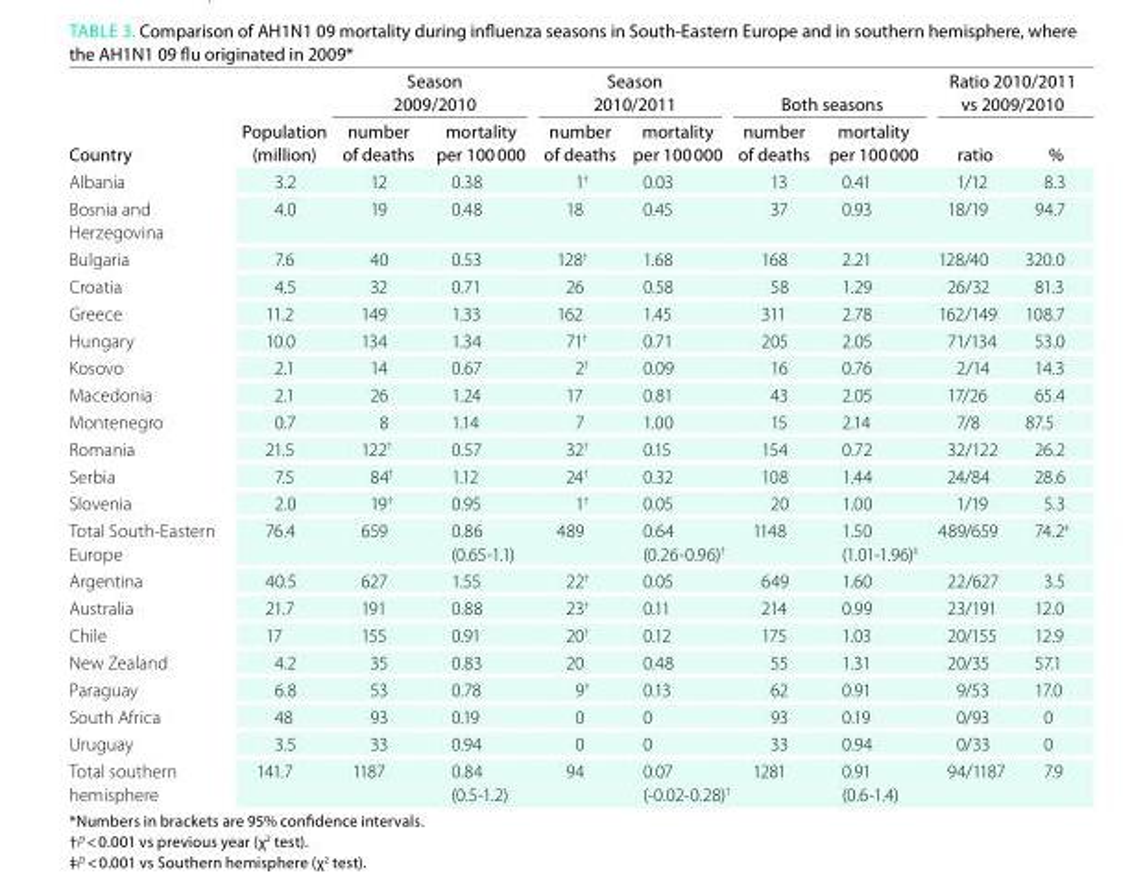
<table><thead><tr><td rowspan="2">country</td><td rowspan="2">Population (million)</td><td colspan="2">Season 2009/2010</td><td colspan="2">Season 2010/2011</td><td colspan="2">both seasons</td><td colspan="2">Ratio 2010/2011 vs 2009/2010</td></tr><tr><td>number of deaths</td><td>mortality per 100 000</td><td>number of deaths</td><td>mortality per 100 000</td><td>number of deaths</td><td>mortality per 100 000</td><td>ratio</td><td>%</td></tr></thead><tbody><tr><td>Albania</td><td>3.2</td><td>12</td><td>0.38</td><td>1<sup>†</sup></td><td>0.03</td><td>13</td><td>0.41</td><td>1/12</td><td>8.3</td></tr><tr><td>Bosnia and Herzegovina</td><td>4.0</td><td>19</td><td>0.48</td><td>18</td><td>0.45</td><td>37</td><td>0.93</td><td>18/19</td><td>94.7</td></tr><tr><td>Bulgaria</td><td>7.6</td><td>40</td><td>0.53</td><td>128<sup>†</sup></td><td>1.68</td><td>168</td><td>2.21</td><td>128/40</td><td>320.0</td></tr><tr><td>Croatia</td><td>4.5</td><td>32</td><td>0.71</td><td>26</td><td>0.58</td><td>58</td><td>1.29</td><td>26/32</td><td>81.3</td></tr><tr><td>Greece</td><td>11.2</td><td>149</td><td>1.33</td><td>162</td><td>1.45</td><td>311</td><td>2.78</td><td>162/149</td><td>108.7</td></tr><tr><td>Hungary</td><td>10.0</td><td>134</td><td>1.34</td><td>71<sup>†</sup></td><td>0.71</td><td>205</td><td>2.05</td><td>71/134</td><td>53.0</td></tr><tr><td>Kosovo</td><td>2.1</td><td>14</td><td>0.67</td><td>2<sup>†</sup></td><td>0.09</td><td>16</td><td>0.76</td><td>2/14</td><td>14.3</td></tr><tr><td>Macedonia</td><td>2.1</td><td>26</td><td>1.24</td><td>17</td><td>0.81</td><td>43</td><td>2.05</td><td>17/26</td><td>65.4</td></tr><tr><td>Montenegro</td><td>0.7</td><td>8</td><td>1.14</td><td>7</td><td>1.00</td><td>15</td><td>2.14</td><td>7/8</td><td>87.5</td></tr><tr><td>Romania</td><td>21.5</td><td>122<sup>†</sup></td><td>0.57</td><td>32<sup>†</sup></td><td>0.15</td><td>154</td><td>0.72</td><td>32/122</td><td>26.2</td></tr><tr><td>Serbia</td><td>7.5</td><td>84<sup>†</sup></td><td>1.12</td><td>24<sup>†</sup></td><td>0.32</td><td>108</td><td>1.44</td><td>24/84</td><td>28.6</td></tr><tr><td>Slovenia</td><td>2.0</td><td>19<sup>†</sup></td><td>0.95</td><td>1<sup>†</sup></td><td>0.05</td><td>20</td><td>1.00</td><td>1/19</td><td>5.3</td></tr><tr><td>Total South-Eastern Europe</td><td>76.4</td><td>659</td><td>0.86 (0.65-1.1)</td><td>489</td><td>0.64 (0.26-0.96)<sup>†</sup></td><td>1148</td><td>1.50 (1.01-1.96)<sup>‡</sup></td><td>489/659</td><td>74.2<sup>‡</sup></td></tr><tr><td>Argentina</td><td>40.5</td><td>627</td><td>1.55</td><td>22<sup>†</sup></td><td>0.05</td><td>649</td><td>1.60</td><td>22/627</td><td>3.5</td></tr><tr><td>Australia</td><td>21.7</td><td>191</td><td>0.88</td><td>23<sup>†</sup></td><td>0.11</td><td>214</td><td>0.99</td><td>23/191</td><td>12.0</td></tr><tr><td>Chile</td><td>17</td><td>155</td><td>0.91</td><td>20<sup>†</sup></td><td>0.12</td><td>175</td><td>1.03</td><td>20/155</td><td>12.9</td></tr><tr><td>New Zealand</td><td>4.2</td><td>35</td><td>0.83</td><td>20</td><td>0.48</td><td>55</td><td>1.31</td><td>20/35</td><td>57.1</td></tr><tr><td>Paraguay</td><td>6.8</td><td>53</td><td>0.78</td><td>9<sup>†</sup></td><td>0.13</td><td>62</td><td>0.91</td><td>9/53</td><td>17.0</td></tr><tr><td>South Africa</td><td>48</td><td>93</td><td>0.19</td><td>0</td><td>0</td><td>93</td><td>0.19</td><td>0/93</td><td>0</td></tr><tr><td>Uruguay</td><td>3.5</td><td>33</td><td>0.94</td><td>0</td><td>0</td><td>33</td><td>0.94</td><td>0/33</td><td>0</td></tr><tr><td>Total southern hemisphere</td><td>141.7</td><td>1187</td><td>0.84 (0.5-1.2)</td><td>94</td><td>0.07 (-0.02-0.28)<sup>†</sup></td><td>1281</td><td>0.91 (0.6-1.4)</td><td>94/1187</td><td>7.9</td></tr></tbody></table>